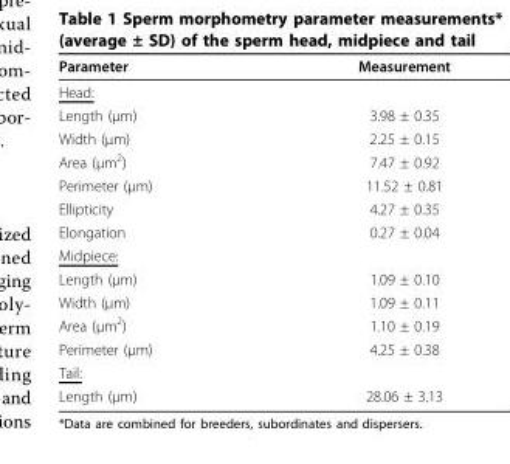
<table><thead><tr><td>Parameter</td><td>Measurement</td></tr></thead><tbody><tr><td colspan="2">Head:</td></tr><tr><td>Length (μm)</td><td>3.98 ± 0.35</td></tr><tr><td>Width (μm)</td><td>2.25 ± 0.15</td></tr><tr><td>Area (μm<sup>2</sup>)</td><td>7.47 ± 0.92</td></tr><tr><td>Perimeter (μm)</td><td>11.52 ± 0.81</td></tr><tr><td>Ellipticity</td><td>4.27 ± 0.35</td></tr><tr><td>Elongation</td><td>0.27 ± 0.04</td></tr><tr><td colspan="2">Midpiece:</td></tr><tr><td>Length (μm)</td><td>1.09 ± 0.10</td></tr><tr><td>Width (μm)</td><td>1.09 ± 0.11</td></tr><tr><td>Area (μm<sup>2</sup>)</td><td>1.10 ± 0.19</td></tr><tr><td>Perimeter (μm)</td><td>4.25 ± 0.38</td></tr><tr><td colspan="2">Tail:</td></tr><tr><td>Length (μm)</td><td>28.06 ± 3.13</td></tr></tbody></table>